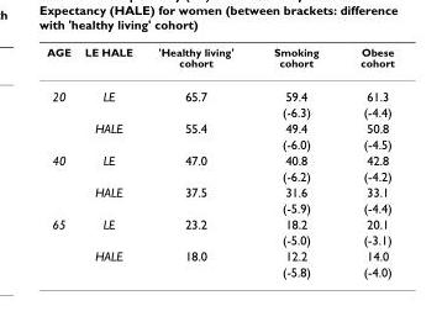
<table><thead><tr><td>AGE</td><td>LE HALE</td><td>&#x27;Healthy living&#x27; cohort</td><td>Smoking cohort</td><td>Obese cohort</td></tr></thead><tbody><tr><td rowspan="4">20</td><td>LE</td><td>65.7</td><td>59.4</td><td>61.3</td></tr><tr><td></td><td></td><td>(-6.3)</td><td>(-4.4)</td></tr><tr><td>HALE</td><td>55.4</td><td>49.4</td><td>50.8</td></tr><tr><td></td><td></td><td>(-6.0)</td><td>(-4.5)</td></tr><tr><td rowspan="4">40</td><td>LE</td><td>47.0</td><td>40.8</td><td>42.8</td></tr><tr><td></td><td></td><td>(-6.2)</td><td>(-4.2)</td></tr><tr><td>HALE</td><td>37.5</td><td>31.6</td><td>33.1</td></tr><tr><td></td><td></td><td>(-5.9)</td><td>(-4.4)</td></tr><tr><td rowspan="4">65</td><td>LE</td><td>23.2</td><td>18.2</td><td>20.1</td></tr><tr><td></td><td></td><td>(-5.0)</td><td>(-3.1)</td></tr><tr><td>HALE</td><td>18.0</td><td>12.2</td><td>14.0</td></tr><tr><td></td><td></td><td>(-5.8)</td><td>(-4.0)</td></tr></tbody></table>